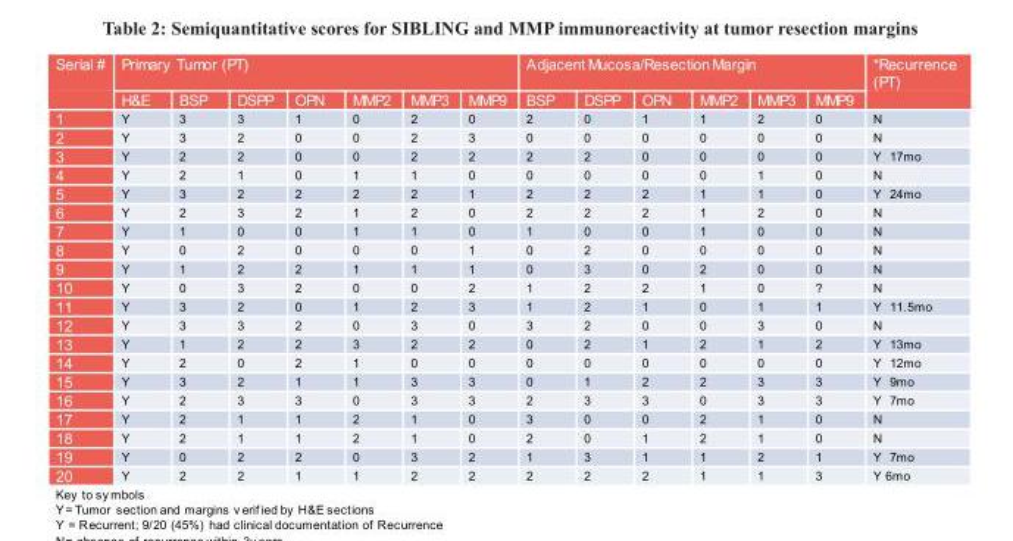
<table><thead><tr><td rowspan="2">Serial #</td><td colspan="7">Primary Tumor (PT)</td><td colspan="6">Adjacent Mucosa/Resection Margin</td><td rowspan="2">*Recurrence (PT)</td></tr><tr><td>H&amp;E</td><td>BSP</td><td>DSPP</td><td>OPN</td><td>MMP2</td><td>MMP3</td><td>MMP9</td><td>BSP</td><td>DSPP</td><td>OPN</td><td>MMP2</td><td>MMP3</td><td>MMP9</td></tr></thead><tbody><tr><td>1</td><td>Y</td><td>3</td><td>3</td><td>1</td><td>0</td><td>2</td><td>0</td><td>2</td><td>0</td><td>1</td><td>1</td><td>2</td><td>0</td><td>N</td></tr><tr><td>2</td><td>Y</td><td>3</td><td>2</td><td>0</td><td>0</td><td>2</td><td>3</td><td>0</td><td>0</td><td>0</td><td>0</td><td>0</td><td>0</td><td>N</td></tr><tr><td>3</td><td>Y</td><td>2</td><td>2</td><td>0</td><td>0</td><td>2</td><td>2</td><td>2</td><td>2</td><td>0</td><td>0</td><td>0</td><td>0</td><td>Y 17mo</td></tr><tr><td>4</td><td>Y</td><td>2</td><td>1</td><td>0</td><td>1</td><td>1</td><td>0</td><td>0</td><td>0</td><td>0</td><td>0</td><td>1</td><td>0</td><td>N</td></tr><tr><td>5</td><td>Y</td><td>3</td><td>2</td><td>2</td><td>2</td><td>2</td><td>1</td><td>2</td><td>2</td><td>2</td><td>1</td><td>1</td><td>0</td><td>Y 24mo</td></tr><tr><td>6</td><td>Y</td><td>2</td><td>3</td><td>2</td><td>1</td><td>2</td><td>0</td><td>2</td><td>2</td><td>2</td><td>1</td><td>2</td><td>0</td><td>N</td></tr><tr><td>7</td><td>Y</td><td>1</td><td>0</td><td>0</td><td>1</td><td>1</td><td>0</td><td>1</td><td>0</td><td>0</td><td>1</td><td>0</td><td>0</td><td>N</td></tr><tr><td>8</td><td>Y</td><td>0</td><td>2</td><td>0</td><td>0</td><td>0</td><td>1</td><td>0</td><td>2</td><td>0</td><td>0</td><td>0</td><td>0</td><td>N</td></tr><tr><td>9</td><td>Y</td><td>1</td><td>2</td><td>2</td><td>1</td><td>1</td><td>1</td><td>0</td><td>3</td><td>0</td><td>2</td><td>0</td><td>0</td><td>N</td></tr><tr><td>10</td><td>Y</td><td>0</td><td>3</td><td>2</td><td>0</td><td>0</td><td>2</td><td>1</td><td>2</td><td>2</td><td>1</td><td>0</td><td>?</td><td>N</td></tr><tr><td>11</td><td>Y</td><td>3</td><td>2</td><td>0</td><td>1</td><td>2</td><td>3</td><td>1</td><td>2</td><td>1</td><td>0</td><td>1</td><td>1</td><td>Y 11.5mo</td></tr><tr><td>12</td><td>Y</td><td>3</td><td>3</td><td>2</td><td>0</td><td>3</td><td>0</td><td>3</td><td>2</td><td>0</td><td>0</td><td>3</td><td>0</td><td>N</td></tr><tr><td>13</td><td>Y</td><td>1</td><td>2</td><td>2</td><td>3</td><td>2</td><td>2</td><td>0</td><td>2</td><td>1</td><td>2</td><td>1</td><td>2</td><td>Y 13mo</td></tr><tr><td>14</td><td>Y</td><td>2</td><td>0</td><td>2</td><td>1</td><td>0</td><td>0</td><td>0</td><td>0</td><td>0</td><td>0</td><td>0</td><td>0</td><td>Y 12mo</td></tr><tr><td>15</td><td>Y</td><td>3</td><td>2</td><td>1</td><td>1</td><td>3</td><td>3</td><td>0</td><td>1</td><td>2</td><td>2</td><td>3</td><td>3</td><td>Y 9mo</td></tr><tr><td>16</td><td>Y</td><td>2</td><td>3</td><td>3</td><td>0</td><td>3</td><td>3</td><td>2</td><td>3</td><td>3</td><td>0</td><td>3</td><td>3</td><td>Y 7mo</td></tr><tr><td>17</td><td>Y</td><td>2</td><td>1</td><td>1</td><td>2</td><td>1</td><td>0</td><td>3</td><td>0</td><td>0</td><td>2</td><td>1</td><td>0</td><td>N</td></tr><tr><td>18</td><td>Y</td><td>2</td><td>1</td><td>1</td><td>2</td><td>1</td><td>0</td><td>2</td><td>0</td><td>1</td><td>2</td><td>1</td><td>0</td><td>N</td></tr><tr><td>19</td><td>Y</td><td>0</td><td>2</td><td>2</td><td>0</td><td>3</td><td>2</td><td>1</td><td>3</td><td>1</td><td>1</td><td>2</td><td>1</td><td>Y 7mo</td></tr><tr><td>20</td><td>Y</td><td>2</td><td>2</td><td>1</td><td>1</td><td>2</td><td>2</td><td>2</td><td>2</td><td>2</td><td>1</td><td>1</td><td>3</td><td>Y 6mo</td></tr></tbody></table>